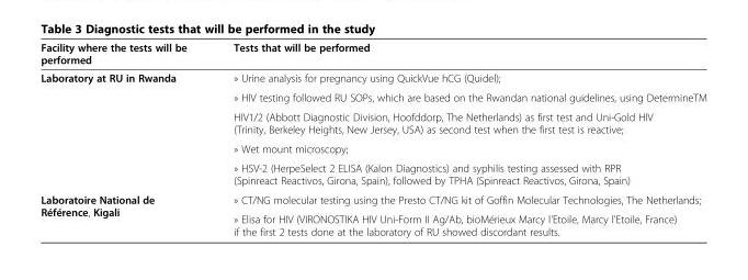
<table><thead><tr><td>Facility where the tests will be performed</td><td>Tests that will be performed</td></tr></thead><tbody><tr><td rowspan="5">Laboratory at RU in Rwanda</td><td>» Urine analysis for pregnancy using QuickVue hCG (Quidel);</td></tr><tr><td>» HIV testing followed RU SOPs, which are based on the Rwandan national guidelines, using DetermineTM</td></tr><tr><td>HIV1/2 (Abbott Diagnostic Division, Hoofddorp, The Netherlands) as first test and Uni-Gold HIV (Trinity, Berkeley Heights, New Jersey, USA) as second test when the first test is reactive;</td></tr><tr><td>» Wet mount microscopy;</td></tr><tr><td>» HSV-2 (HerpeSelect 2 ELISA (Kalon Diagnostics) and syphilis testing assessed with RPR (Spinreact Reactivos, Girona, Spain), followed by TPHA (Spinreact Reactivos, Girona, Spain)</td></tr><tr><td rowspan="2">Laboratoire National de Référence, Kigali</td><td>» CT/NG molecular testing using the Presto CT/NG kit of Goffin Molecular Technologies, The Netherlands;</td></tr><tr><td>» Elisa for HIV (VIRONOSTIKA HIV Uni-Form II Ag/Ab, bioMérieux Marcy l&#x27;Etoile, Marcy l&#x27;Etoile, France) if the first 2 tests done at the laboratory of RU showed discordant results.</td></tr></tbody></table>